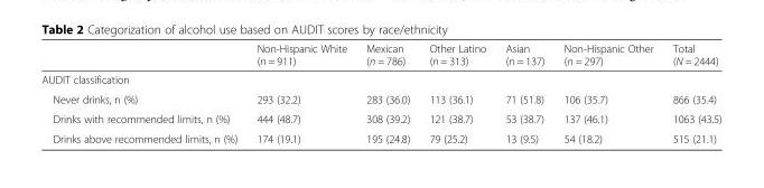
<table><thead><tr><td></td><td>Non-Hispanic White (n = 911)</td><td>Mexican (n = 786)</td><td>Other Latino (n = 313)</td><td>Asian (n = 137)</td><td>Non-Hispanic Other (n = 297)</td><td>Total (N = 2444)</td></tr></thead><tbody><tr><td colspan="7">AUDIT classification</td></tr><tr><td>Never drinks, n (%)</td><td>293 (32.2)</td><td>283 (36.0)</td><td>113 (36.1)</td><td>71 (51.8)</td><td>106 (35.7)</td><td>866 (35.4)</td></tr><tr><td>Drinks with recommended limits, n (%)</td><td>444 (48.7)</td><td>308 (39.2)</td><td>121 (38.7)</td><td>53 (38.7)</td><td>137 (46.1)</td><td>1063 (43.5)</td></tr><tr><td>Drinks above recommended limits, n (%)</td><td>174 (19.1)</td><td>195 (24.8)</td><td>79 (25.2)</td><td>13 (9.5)</td><td>54 (18.2)</td><td>515 (21.1)</td></tr></tbody></table>